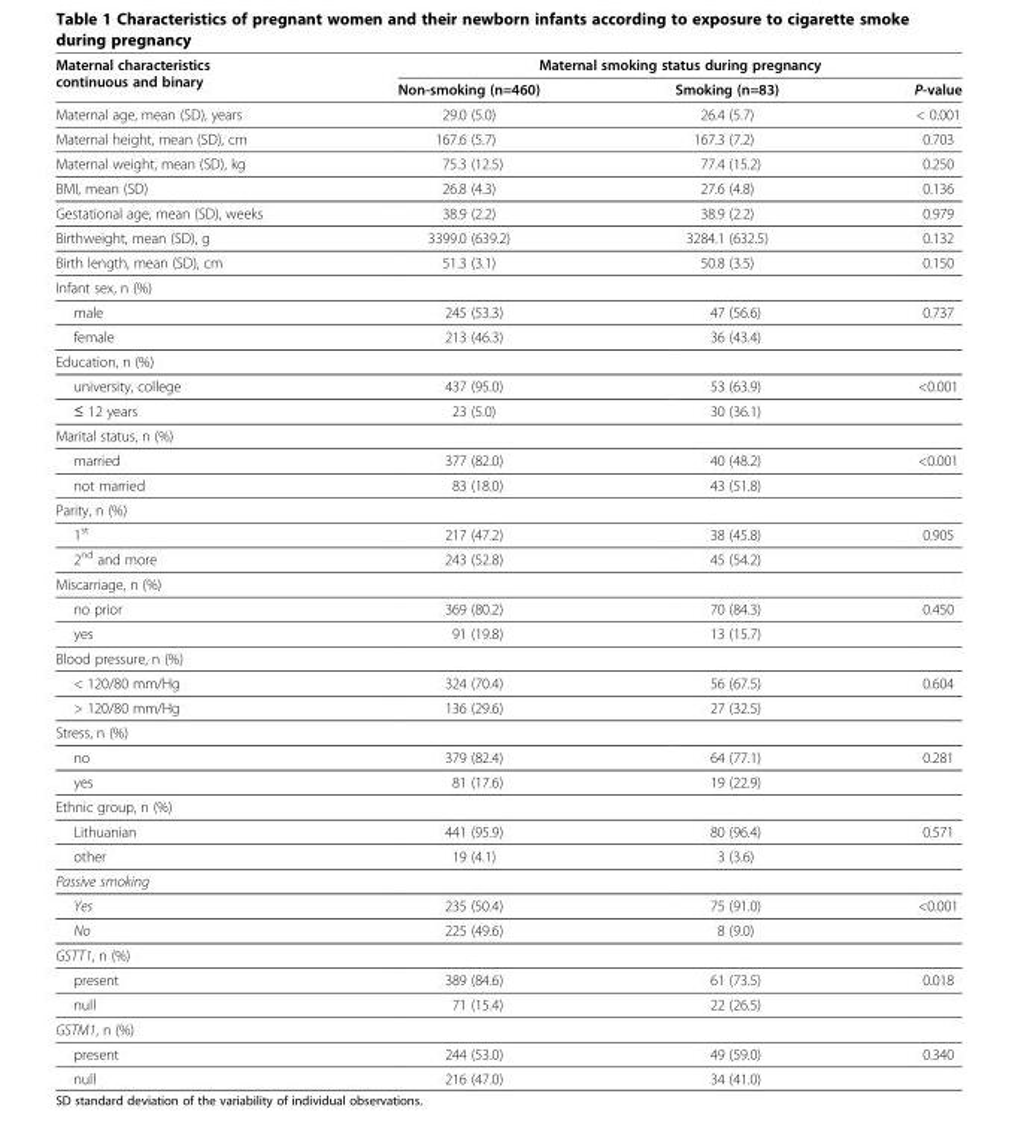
<table><thead><tr><td rowspan="2">Maternal characteristics continuous and binary</td><td colspan="3">Maternal smoking status during pregnancy</td></tr><tr><td>Non-smoking (n=460)</td><td>Smoking (n=83)</td><td>P-value</td></tr></thead><tbody><tr><td>Maternal age, mean (SD), years</td><td>29.0 (5.0)</td><td>26.4 (5.7)</td><td>&lt; 0.001</td></tr><tr><td>Maternal height, mean (SD), cm</td><td>167.6 (5.7)</td><td>167.3 (7.2)</td><td>0.703</td></tr><tr><td>Maternal weight, mean (SD), kg</td><td>75.3 (12.5)</td><td>77.4 (15.2)</td><td>0.250</td></tr><tr><td>BMI, mean (SD)</td><td>26.8 (4.3)</td><td>27.6 (4.8)</td><td>0.136</td></tr><tr><td>Gestational age, mean (SD), weeks</td><td>38.9 (2.2)</td><td>38.9 (2.2)</td><td>0.979</td></tr><tr><td>Birthweight, mean (SD), g</td><td>3399.0 (639.2)</td><td>3284.1 (632.5)</td><td>0.132</td></tr><tr><td>Birth length, mean (SD), cm</td><td>51.3 (3.1)</td><td>50.8 (3.5)</td><td>0.150</td></tr><tr><td colspan="4">Infant sex, n (%)</td></tr><tr><td>male</td><td>245 (53.3)</td><td>47 (56.6)</td><td>0.737</td></tr><tr><td>female</td><td>213 (46.3)</td><td>36 (43.4)</td><td></td></tr><tr><td colspan="4">Education, n (%)</td></tr><tr><td>university, college</td><td>437 (95.0)</td><td>53 (63.9)</td><td>&lt;0.001</td></tr><tr><td>≤ 12 years</td><td>23 (5.0)</td><td>30 (36.1)</td><td></td></tr><tr><td colspan="4">Marital status, n (%)</td></tr><tr><td>married</td><td>377 (82.0)</td><td>40 (48.2)</td><td>&lt;0.001</td></tr><tr><td>not married</td><td>83 (18.0)</td><td>43 (51.8)</td><td></td></tr><tr><td colspan="4">Parity, n (%)</td></tr><tr><td>1<sup>st</sup></td><td>217 (47.2)</td><td>38 (45.8)</td><td>0.905</td></tr><tr><td>2<sup>nd</sup> and more</td><td>243 (52.8)</td><td>45 (54.2)</td><td></td></tr><tr><td colspan="4">Miscarriage, n (%)</td></tr><tr><td>no prior</td><td>369 (80.2)</td><td>70 (84.3)</td><td>0.450</td></tr><tr><td>yes</td><td>91 (19.8)</td><td>13 (15.7)</td><td></td></tr><tr><td colspan="4">Blood pressure, n (%)</td></tr><tr><td>&lt; 120/80 mm/Hg</td><td>324 (70.4)</td><td>56 (67.5)</td><td>0.604</td></tr><tr><td>&gt; 120/80 mm/Hg</td><td>136 (29.6)</td><td>27 (32.5)</td><td></td></tr><tr><td colspan="4">Stress, n (%)</td></tr><tr><td>no</td><td>379 (82.4)</td><td>64 (77.1)</td><td>0.281</td></tr><tr><td>yes</td><td>81 (17.6)</td><td>19 (22.9)</td><td></td></tr><tr><td colspan="4">Ethnic group, n (%)</td></tr><tr><td>Lithuanian</td><td>441 (95.9)</td><td>80 (96.4)</td><td>0.571</td></tr><tr><td>other</td><td>19 (4.1)</td><td>3 (3.6)</td><td></td></tr><tr><td colspan="4">Passive smoking</td></tr><tr><td>Yes</td><td>235 (50.4)</td><td>75 (91.0)</td><td>&lt;0.001</td></tr><tr><td>No</td><td>225 (49.6)</td><td>8 (9.0)</td><td></td></tr><tr><td colspan="4">GSTT1, n (%)</td></tr><tr><td>present</td><td>389 (84.6)</td><td>61 (73.5)</td><td>0.018</td></tr><tr><td>null</td><td>71 (15.4)</td><td>22 (26.5)</td><td></td></tr><tr><td colspan="4">GSTM1, n (%)</td></tr><tr><td>present</td><td>244 (53.0)</td><td>49 (59.0)</td><td>0.340</td></tr><tr><td>null</td><td>216 (47.0)</td><td>34 (41.0)</td><td></td></tr></tbody></table>